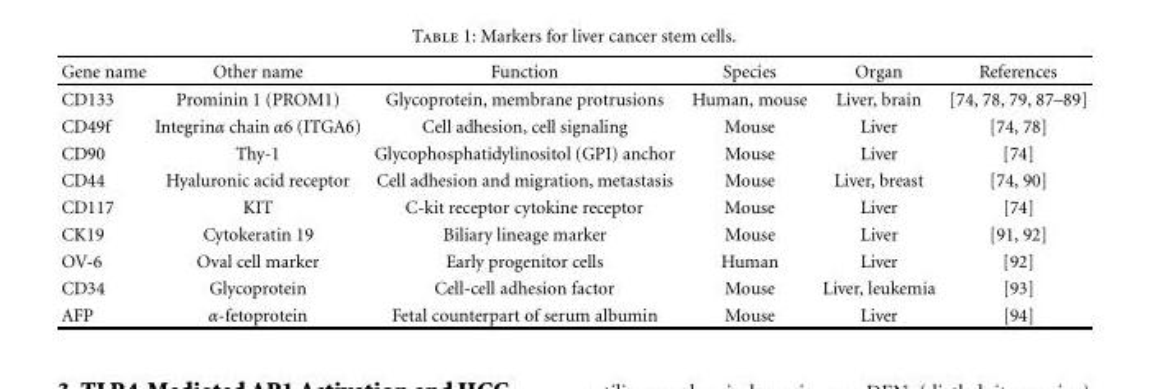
<table><thead><tr><td>Gene name</td><td>Other name</td><td>Function</td><td>Species</td><td>Organ</td><td>References</td></tr></thead><tbody><tr><td>CD133</td><td>Prominin 1 (PROM1)</td><td>Glycoprotein, membrane protrusions</td><td>Human, mouse</td><td>Liver, brain</td><td>[74, 78, 79, 87–89]</td></tr><tr><td>CD49f</td><td>Integrinα chain α6 (ITGA6)</td><td>Cell adhesion, cell signaling</td><td>Mouse</td><td>Liver</td><td>[74, 78]</td></tr><tr><td>CD90</td><td>Thy-1</td><td>Glycophosphatidylinositol (GPI) anchor</td><td>Mouse</td><td>Liver</td><td>[74]</td></tr><tr><td>CD44</td><td>Hyaluronic acid receptor</td><td>Cell adhesion and migration, metastasis</td><td>Mouse</td><td>Liver, breast</td><td>[74, 90]</td></tr><tr><td>CD117</td><td>KIT</td><td>C-kit receptor cytokine receptor</td><td>Mouse</td><td>Liver</td><td>[74]</td></tr><tr><td>CK19</td><td>Cytokeratin 19</td><td>Biliary lineage marker</td><td>Mouse</td><td>Liver</td><td>[91, 92]</td></tr><tr><td>OV-6</td><td>Oval cell marker</td><td>Early progenitor cells</td><td>Human</td><td>Liver</td><td>[92]</td></tr><tr><td>CD34</td><td>Glycoprotein</td><td>Cell-cell adhesion factor</td><td>Mouse</td><td>Liver, leukemia</td><td>[93]</td></tr><tr><td>AFP</td><td>α-fetoprotein</td><td>Fetal counterpart of serum albumin</td><td>Mouse</td><td>Liver</td><td>[94]</td></tr></tbody></table>